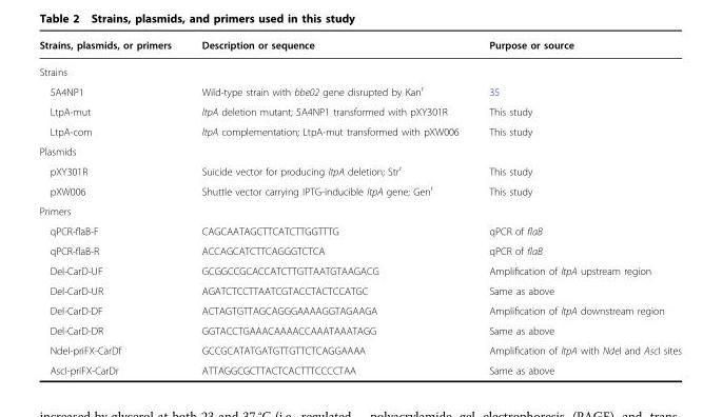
<table><thead><tr><td>Strains, plasmids, or primers</td><td>Description or sequence</td><td>Purpose or source</td></tr></thead><tbody><tr><td colspan="3">Strains</td></tr><tr><td>5A4NP1</td><td>Wild-type strain with bbe02 gene disrupted by Kan<sup>r</sup></td><td>35</td></tr><tr><td>LtpA-mut</td><td>ltpA deletion mutant; 5A4NP1 transformed with pXY301R</td><td>This study</td></tr><tr><td>LtpA-com</td><td>ltpA complementation; LtpA-mut transformed with pXW006</td><td>This study</td></tr><tr><td colspan="3">Plasmids</td></tr><tr><td>pXY301R</td><td>Suicide vector for producing ltpA deletion; Str<sup>r</sup></td><td>This study</td></tr><tr><td>pXW006</td><td>Shuttle vector carrying IPTG-inducible ltpA gene; Gen<sup>r</sup></td><td>This study</td></tr><tr><td colspan="3">Primers</td></tr><tr><td>qPCR-flaB-F</td><td>CAGCAATAGCTTCATCTTGGTTTG</td><td>qPCR of flaB</td></tr><tr><td>qPCR-flaB-R</td><td>ACCAGCATCTTCAGGGTCTCA</td><td>qPCR of flaB</td></tr><tr><td>Del-CarD-UF</td><td>GCGGCCGCACCATCTTGTTAATGTAAGACG</td><td>Amplification of ltpA upstream region</td></tr><tr><td>Del-CarD-UR</td><td>AGATCTCCTTAATCGTACCTACTCCATGC</td><td>Same as above</td></tr><tr><td>Del-CarD-DF</td><td>ACTAGTGTTAGCAGGGAAAAGGTAGAAGA</td><td>Amplification of ltpA downstream region</td></tr><tr><td>Del-CarD-DR</td><td>GGTACCTGAAACAAAACCAAATAAATAGG</td><td>Same as above</td></tr><tr><td>NdeI-priFX-CarDf</td><td>GCCGCATATGATGTTGTTCTCAGGAAAA</td><td>Amplification of ltpA with NdeI and AscI sites</td></tr><tr><td>AscI-priFX-CarDr</td><td>ATTAGGCGCTTACTCACTTTCCCCTAA</td><td>Same as above</td></tr></tbody></table>